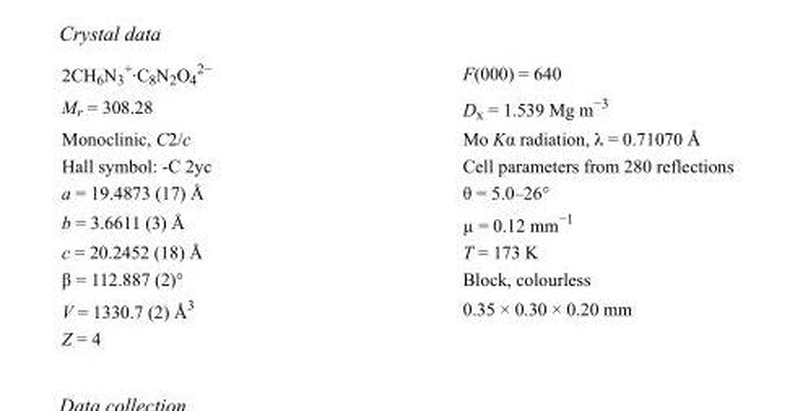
<table><tbody><tr><td>2CH<sub>6</sub>N<sub>3</sub> <sup>+</sup>·C<sub>8</sub>N<sub>2</sub>O<sub>4</sub> <sup>2−</sup></td><td>F(000) = 640</td></tr><tr><td>M<sub>r</sub> = 308.28</td><td>D<sub>x</sub> = 1.539 Mg m<sup>−3</sup></td></tr><tr><td>Monoclinic, C2/c</td><td>Mo Kα radiation, λ = 0.71070 Å</td></tr><tr><td>Hall symbol: -C 2yc</td><td>Cell parameters from 280 reflections</td></tr><tr><td>a = 19.4873 (17) Å</td><td>θ = 5.0–26°</td></tr><tr><td>b = 3.6611 (3) Å</td><td>µ = 0.12 mm<sup>−1</sup></td></tr><tr><td>c = 20.2452 (18) Å</td><td>T = 173 K</td></tr><tr><td>β = 112.887 (2)°</td><td>Block, colourless</td></tr><tr><td>V = 1330.7 (2) Å<sup>3</sup></td><td>0.35 × 0.30 × 0.20 mm</td></tr><tr><td>Z = 4</td><td></td></tr></tbody></table>